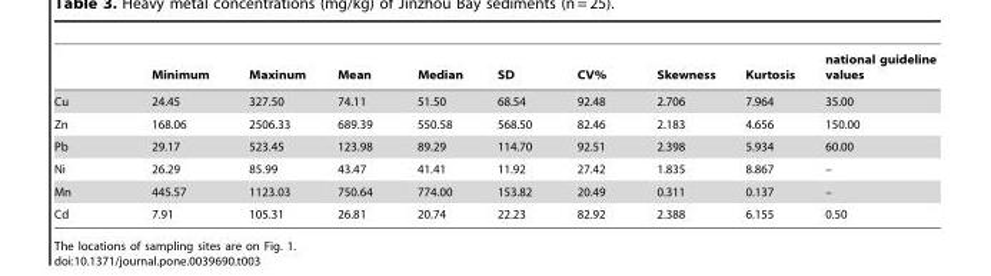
<table><thead><tr><td></td><td>Minimum</td><td>Maxinum</td><td>Mean</td><td>Median</td><td>SD</td><td>CV%</td><td>Skewness</td><td>Kurtosis</td><td>national guideline values</td></tr></thead><tbody><tr><td>Cu</td><td>24.45</td><td>327.50</td><td>74.11</td><td>51.50</td><td>68.54</td><td>92.48</td><td>2.706</td><td>7.964</td><td>35.00</td></tr><tr><td>Zn</td><td>168.06</td><td>2506.33</td><td>689.39</td><td>550.58</td><td>568.50</td><td>82.46</td><td>2.183</td><td>4.656</td><td>150.00</td></tr><tr><td>Pb</td><td>29.17</td><td>523.45</td><td>123.98</td><td>89.29</td><td>114.70</td><td>92.51</td><td>2.398</td><td>5.934</td><td>60.00</td></tr><tr><td>Ni</td><td>26.29</td><td>85.99</td><td>43.47</td><td>41.41</td><td>11.92</td><td>27.42</td><td>1.835</td><td>8.867</td><td>–</td></tr><tr><td>Mn</td><td>445.57</td><td>1123.03</td><td>750.64</td><td>774.00</td><td>153.82</td><td>20.49</td><td>0.311</td><td>0.137</td><td>–</td></tr><tr><td>Cd</td><td>7.91</td><td>105.31</td><td>26.81</td><td>20.74</td><td>22.23</td><td>82.92</td><td>2.388</td><td>6.155</td><td>0.50</td></tr></tbody></table>